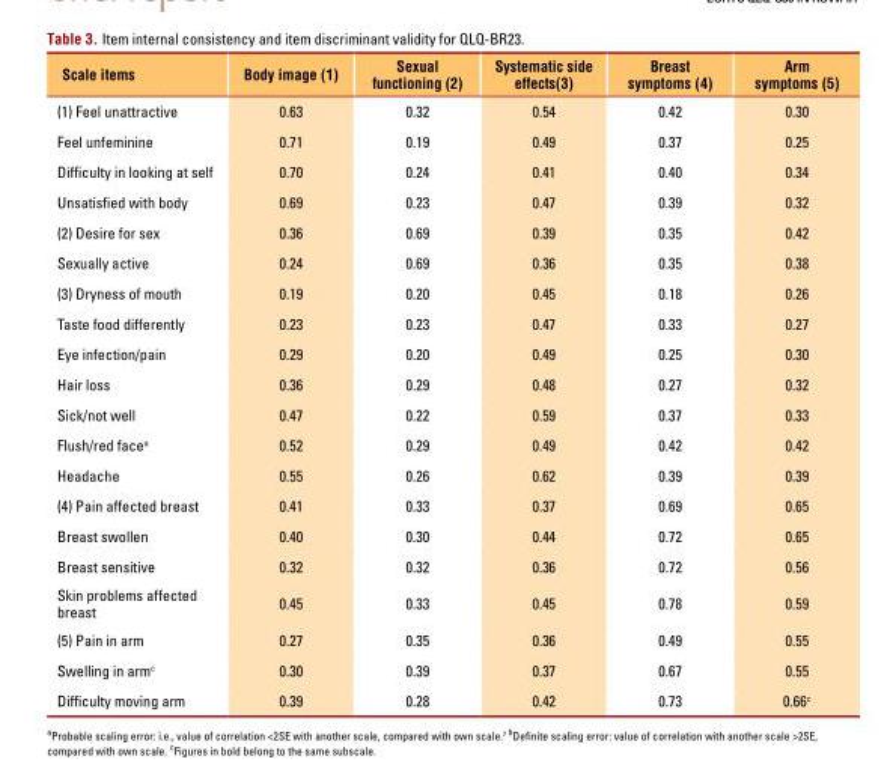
<table><thead><tr><td>Scale items</td><td>Body image (1)</td><td>Sexual functioning (2)</td><td>Systematic side effects(3)</td><td>Breast symptoms (4)</td><td>Arm symptoms (5)</td></tr></thead><tbody><tr><td>(1) Feel unattractive</td><td>0.63</td><td>0.32</td><td>0.54</td><td>0.42</td><td>0.30</td></tr><tr><td>Feel unfeminine</td><td>0.71</td><td>0.19</td><td>0.49</td><td>0.37</td><td>0.25</td></tr><tr><td>Difficulty in looking at self</td><td>0.70</td><td>0.24</td><td>0.41</td><td>0.40</td><td>0.34</td></tr><tr><td>Unsatisfied with body</td><td>0.69</td><td>0.23</td><td>0.47</td><td>0.39</td><td>0.32</td></tr><tr><td>(2) Desire for sex</td><td>0.36</td><td>0.69</td><td>0.39</td><td>0.35</td><td>0.42</td></tr><tr><td>Sexually active</td><td>0.24</td><td>0.69</td><td>0.36</td><td>0.35</td><td>0.38</td></tr><tr><td>(3) Dryness of mouth</td><td>0.19</td><td>0.20</td><td>0.45</td><td>0.18</td><td>0.26</td></tr><tr><td>Taste food differently</td><td>0.23</td><td>0.23</td><td>0.47</td><td>0.33</td><td>0.27</td></tr><tr><td>Eye infection/pain</td><td>0.29</td><td>0.20</td><td>0.49</td><td>0.25</td><td>0.30</td></tr><tr><td>Hair loss</td><td>0.36</td><td>0.29</td><td>0.48</td><td>0.27</td><td>0.32</td></tr><tr><td>Sick/not well</td><td>0.47</td><td>0.22</td><td>0.59</td><td>0.37</td><td>0.33</td></tr><tr><td>Flush/red face<sup>a</sup></td><td>0.52</td><td>0.29</td><td>0.49</td><td>0.42</td><td>0.42</td></tr><tr><td>Headache</td><td>0.55</td><td>0.26</td><td>0.62</td><td>0.39</td><td>0.39</td></tr><tr><td>(4) Pain affected breast</td><td>0.41</td><td>0.33</td><td>0.37</td><td>0.69</td><td>0.65</td></tr><tr><td>Breast swollen</td><td>0.40</td><td>0.30</td><td>0.44</td><td>0.72</td><td>0.65</td></tr><tr><td>Breast sensitive</td><td>0.32</td><td>0.32</td><td>0.36</td><td>0.72</td><td>0.56</td></tr><tr><td>Skin problems affected breast</td><td>0.45</td><td>0.33</td><td>0.45</td><td>0.78</td><td>0.59</td></tr><tr><td>(5) Pain in arm</td><td>0.27</td><td>0.35</td><td>0.36</td><td>0.49</td><td>0.55</td></tr><tr><td>Swelling in arm<sup>c</sup></td><td>0.30</td><td>0.39</td><td>0.37</td><td>0.67</td><td>0.55</td></tr><tr><td>Difficulty moving arm</td><td>0.39</td><td>0.28</td><td>0.42</td><td>0.73</td><td>0.66<sup>c</sup></td></tr></tbody></table>